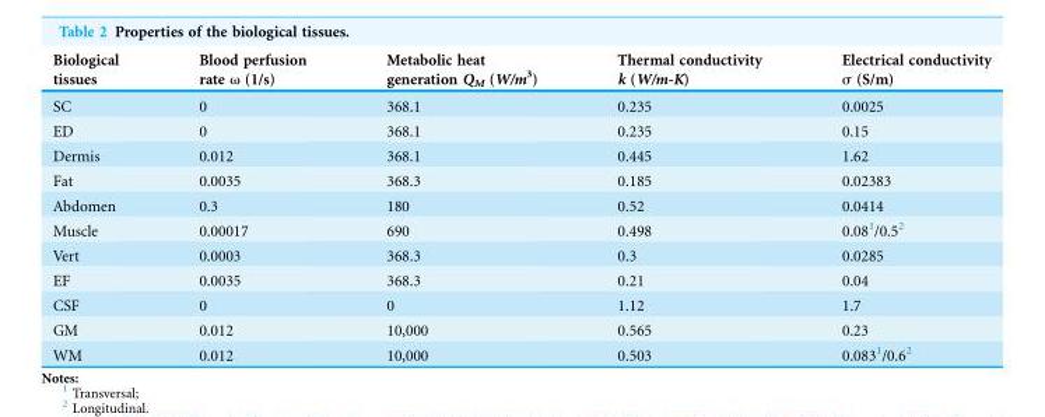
<table><thead><tr><td>Biological tissues</td><td>Blood perfusion rate ω (1/s)</td><td>Metabolic heat generation QM (W/m3)</td><td>Thermal conductivity k (W/m-K)</td><td>Electrical conductivity σ (S/m)</td></tr></thead><tbody><tr><td>SC</td><td>0</td><td>368.1</td><td>0.235</td><td>0.0025</td></tr><tr><td>ED</td><td>0</td><td>368.1</td><td>0.235</td><td>0.15</td></tr><tr><td>Dermis</td><td>0.012</td><td>368.1</td><td>0.445</td><td>1.62</td></tr><tr><td>Fat</td><td>0.0035</td><td>368.3</td><td>0.185</td><td>0.02383</td></tr><tr><td>Abdomen</td><td>0.3</td><td>180</td><td>0.52</td><td>0.0414</td></tr><tr><td>Muscle</td><td>0.00017</td><td>690</td><td>0.498</td><td>0.081/0.52</td></tr><tr><td>Vert</td><td>0.0003</td><td>368.3</td><td>0.3</td><td>0.0285</td></tr><tr><td>EF</td><td>0.0035</td><td>368.3</td><td>0.21</td><td>0.04</td></tr><tr><td>CSF</td><td>0</td><td>0</td><td>1.12</td><td>1.7</td></tr><tr><td>GM</td><td>0.012</td><td>10,000</td><td>0.565</td><td>0.23</td></tr><tr><td>WM</td><td>0.012</td><td>10,000</td><td>0.503</td><td>0.0831/0.62</td></tr></tbody></table>